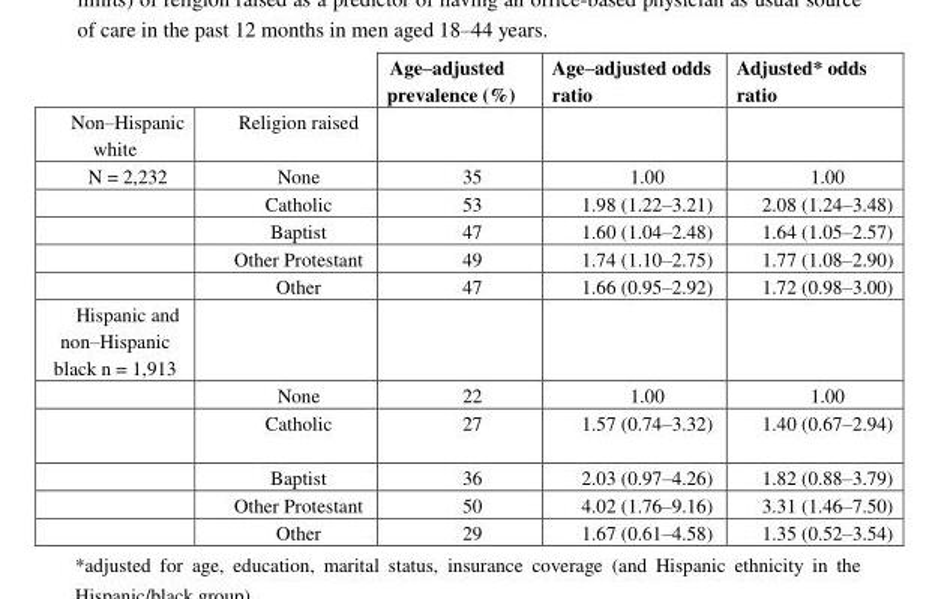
<table><thead><tr><td></td><td></td><td>Age–adjusted prevalence (%)</td><td>Age–adjusted odds ratio</td><td>Adjusted* odds ratio</td></tr></thead><tbody><tr><td>Non–Hispanic white</td><td>Religion raised</td><td></td><td></td><td></td></tr><tr><td rowspan="5">N = 2,232</td><td>None</td><td>35</td><td>1.00</td><td>1.00</td></tr><tr><td>Catholic</td><td>53</td><td>1.98 (1.22–3.21)</td><td>2.08 (1.24–3.48)</td></tr><tr><td>Baptist</td><td>47</td><td>1.60 (1.04–2.48)</td><td>1.64 (1.05–2.57)</td></tr><tr><td>Other Protestant</td><td>49</td><td>1.74 (1.10–2.75)</td><td>1.77 (1.08–2.90)</td></tr><tr><td>Other</td><td>47</td><td>1.66 (0.95–2.92)</td><td>1.72 (0.98–3.00)</td></tr><tr><td colspan="5">Hispanic and non–Hispanic black n = 1,913</td></tr><tr><td></td><td>None</td><td>22</td><td>1.00</td><td>1.00</td></tr><tr><td></td><td>Catholic</td><td>27</td><td>1.57 (0.74–3.32)</td><td>1.40 (0.67–2.94)</td></tr><tr><td></td><td>Baptist</td><td>36</td><td>2.03 (0.97–4.26)</td><td>1.82 (0.88–3.79)</td></tr><tr><td></td><td>Other Protestant</td><td>50</td><td>4.02 (1.76–9.16)</td><td>3.31 (1.46–7.50)</td></tr><tr><td></td><td>Other</td><td>29</td><td>1.67 (0.61–4.58)</td><td>1.35 (0.52–3.54)</td></tr></tbody></table>